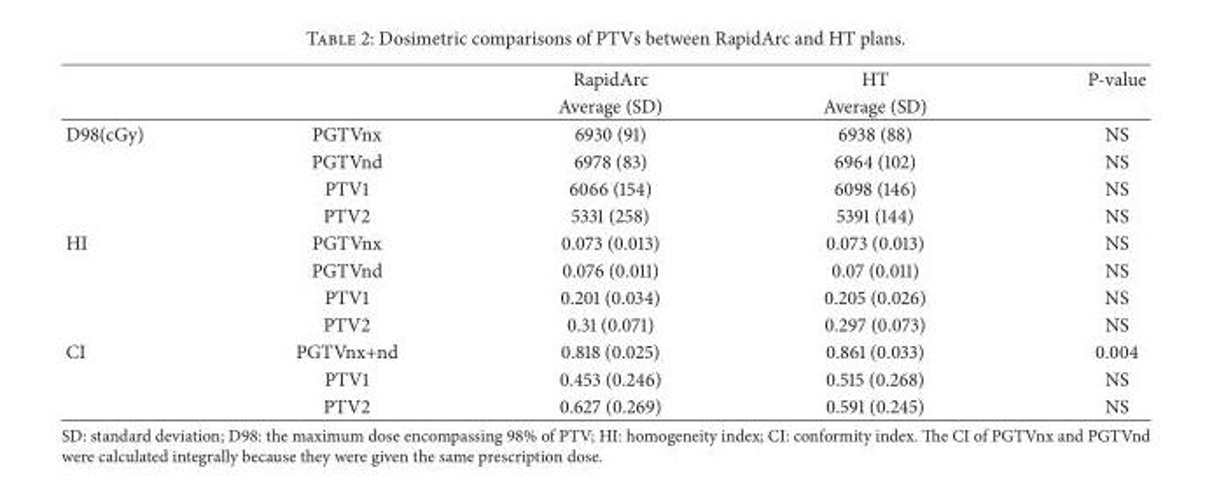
<table><thead><tr><td rowspan="2"></td><td rowspan="2"></td><td rowspan="2">RapidArc Average (SD)</td><td rowspan="2">HT Average (SD)</td><td rowspan="2">P-value</td></tr><tr></tr></thead><tbody><tr><td rowspan="4">D98(cGy)</td><td>PGTVnx</td><td>6930 (91)</td><td>6938 (88)</td><td>NS</td></tr><tr><td>PGTVnd</td><td>6978 (83)</td><td>6964 (102)</td><td>NS</td></tr><tr><td>PTV1</td><td>6066 (154)</td><td>6098 (146)</td><td>NS</td></tr><tr><td>PTV2</td><td>5331 (258)</td><td>5391 (144)</td><td>NS</td></tr><tr><td rowspan="4">HI</td><td>PGTVnx</td><td>0.073 (0.013)</td><td>0.073 (0.013)</td><td>NS</td></tr><tr><td>PGTVnd</td><td>0.076 (0.011)</td><td>0.07 (0.011)</td><td>NS</td></tr><tr><td>PTV1</td><td>0.201 (0.034)</td><td>0.205 (0.026)</td><td>NS</td></tr><tr><td>PTV2</td><td>0.31 (0.071)</td><td>0.297 (0.073)</td><td>NS</td></tr><tr><td rowspan="3">CI</td><td>PGTVnx+nd</td><td>0.818 (0.025)</td><td>0.861 (0.033)</td><td>0.004</td></tr><tr><td>PTV1</td><td>0.453 (0.246)</td><td>0.515 (0.268)</td><td>NS</td></tr><tr><td>PTV2</td><td>0.627 (0.269)</td><td>0.591 (0.245)</td><td>NS</td></tr></tbody></table>